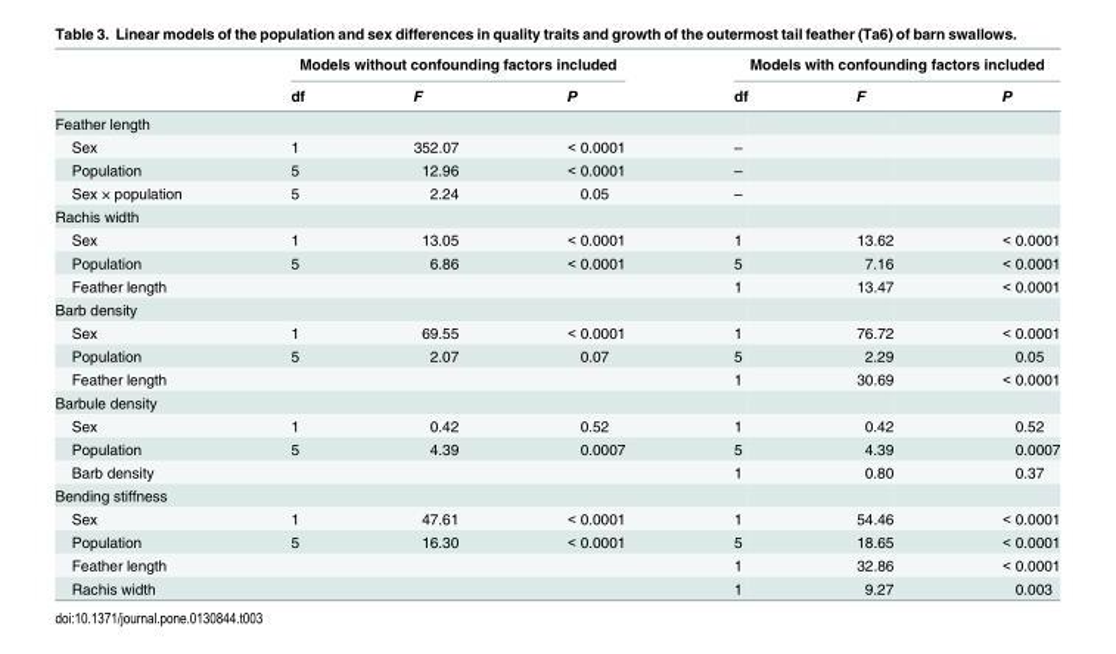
<table><thead><tr><td rowspan="2"></td><td colspan="3">Models without confounding factors included</td><td colspan="3">Models with confounding factors included</td></tr><tr><td>df</td><td>F</td><td>P</td><td>df</td><td>F</td><td>P</td></tr></thead><tbody><tr><td colspan="7">Feather length</td></tr><tr><td>Sex</td><td>1</td><td>352.07</td><td>&lt; 0.0001</td><td>–</td><td></td><td></td></tr><tr><td>Population</td><td>5</td><td>12.96</td><td>&lt; 0.0001</td><td>–</td><td></td><td></td></tr><tr><td>Sex × population</td><td>5</td><td>2.24</td><td>0.05</td><td>–</td><td></td><td></td></tr><tr><td colspan="7">Rachis width</td></tr><tr><td>Sex</td><td>1</td><td>13.05</td><td>&lt; 0.0001</td><td>1</td><td>13.62</td><td>&lt; 0.0001</td></tr><tr><td>Population</td><td>5</td><td>6.86</td><td>&lt; 0.0001</td><td>5</td><td>7.16</td><td>&lt; 0.0001</td></tr><tr><td>Feather length</td><td></td><td></td><td></td><td>1</td><td>13.47</td><td>&lt; 0.0001</td></tr><tr><td colspan="7">Barb density</td></tr><tr><td>Sex</td><td>1</td><td>69.55</td><td>&lt; 0.0001</td><td>1</td><td>76.72</td><td>&lt; 0.0001</td></tr><tr><td>Population</td><td>5</td><td>2.07</td><td>0.07</td><td>5</td><td>2.29</td><td>0.05</td></tr><tr><td>Feather length</td><td></td><td></td><td></td><td>1</td><td>30.69</td><td>&lt; 0.0001</td></tr><tr><td colspan="7">Barbule density</td></tr><tr><td>Sex</td><td>1</td><td>0.42</td><td>0.52</td><td>1</td><td>0.42</td><td>0.52</td></tr><tr><td>Population</td><td>5</td><td>4.39</td><td>0.0007</td><td>5</td><td>4.39</td><td>0.0007</td></tr><tr><td>Barb density</td><td></td><td></td><td></td><td>1</td><td>0.80</td><td>0.37</td></tr><tr><td colspan="7">Bending stiffness</td></tr><tr><td>Sex</td><td>1</td><td>47.61</td><td>&lt; 0.0001</td><td>1</td><td>54.46</td><td>&lt; 0.0001</td></tr><tr><td>Population</td><td>5</td><td>16.30</td><td>&lt; 0.0001</td><td>5</td><td>18.65</td><td>&lt; 0.0001</td></tr><tr><td>Feather length</td><td></td><td></td><td></td><td>1</td><td>32.86</td><td>&lt; 0.0001</td></tr><tr><td>Rachis width</td><td></td><td></td><td></td><td>1</td><td>9.27</td><td>0.003</td></tr></tbody></table>